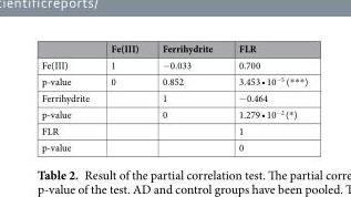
<table><thead><tr><td></td><td>Fe(III)</td><td>Ferrihydrite</td><td>FLR</td></tr></thead><tbody><tr><td>Fe(III)</td><td>1</td><td>−0.033</td><td>0.700</td></tr><tr><td>p-value</td><td>0</td><td>0.852</td><td>3.453 • 10<sup>−5</sup> (***)</td></tr><tr><td>Ferrihydrite</td><td></td><td>1</td><td>−0.464</td></tr><tr><td>p-value</td><td></td><td>0</td><td>1.279 • 10<sup>−2</sup> (*)</td></tr><tr><td>FLR</td><td></td><td></td><td>1</td></tr><tr><td>p-value</td><td></td><td></td><td>0</td></tr></tbody></table>